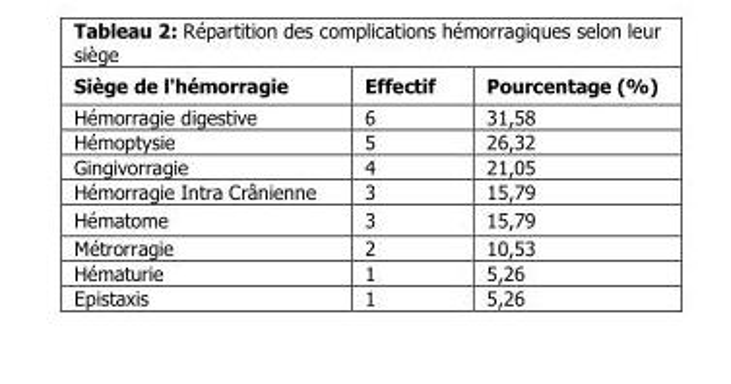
<table><thead><tr><td>Siège de l&#x27;hémorragie</td><td>Effectif</td><td>Pourcentage (%)</td></tr></thead><tbody><tr><td>Hémorragie digestive</td><td>6</td><td>31,58</td></tr><tr><td>Hémoptysie</td><td>5</td><td>26,32</td></tr><tr><td>Gingivorragie</td><td>4</td><td>21,05</td></tr><tr><td>Hémorragie Intra Crânienne</td><td>3</td><td>15,79</td></tr><tr><td>Hématome</td><td>3</td><td>15,79</td></tr><tr><td>Métrorragie</td><td>2</td><td>10,53</td></tr><tr><td>Hématurie</td><td>1</td><td>5,26</td></tr><tr><td>Epistaxis</td><td>1</td><td>5,26</td></tr></tbody></table>